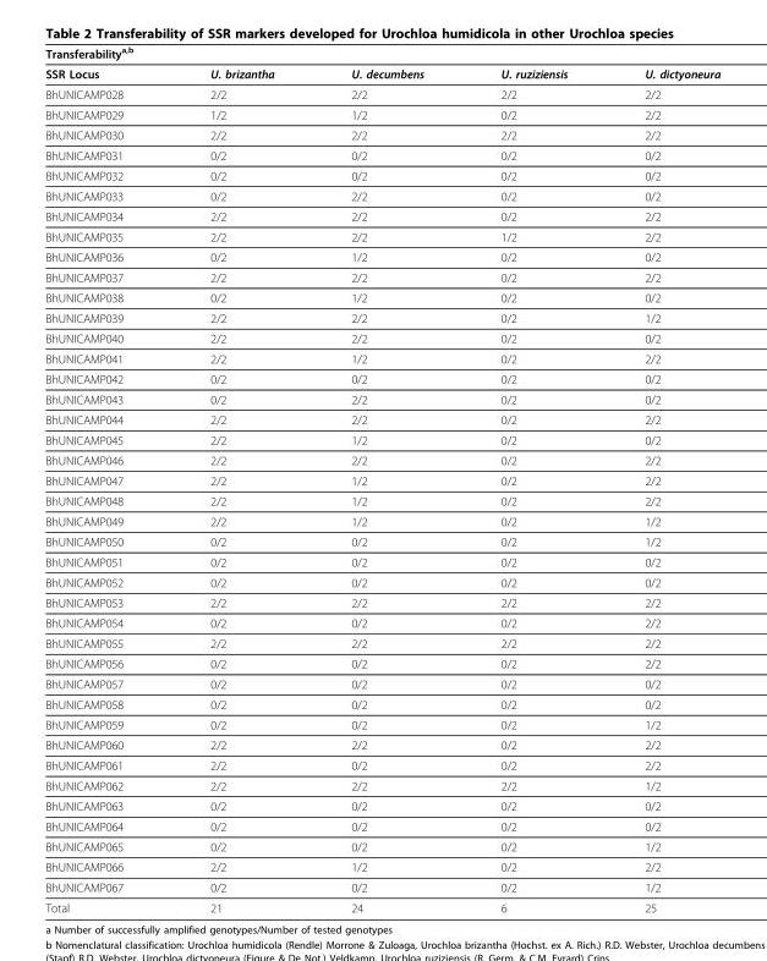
<table><thead><tr><td>Transferability<sup>a,b</sup></td><td></td><td></td><td></td><td></td></tr></thead><tbody><tr><td>SSR Locus</td><td>U. brizantha</td><td>U. decumbens</td><td>U. ruziziensis</td><td>U. dictyoneura</td></tr><tr><td>BhUNICAMP028</td><td>2/2</td><td>2/2</td><td>2/2</td><td>2/2</td></tr><tr><td>BhUNICAMP029</td><td>1/2</td><td>1/2</td><td>0/2</td><td>2/2</td></tr><tr><td>BhUNICAMP030</td><td>2/2</td><td>2/2</td><td>2/2</td><td>2/2</td></tr><tr><td>BhUNICAMP031</td><td>0/2</td><td>0/2</td><td>0/2</td><td>0/2</td></tr><tr><td>BhUNICAMP032</td><td>0/2</td><td>0/2</td><td>0/2</td><td>0/2</td></tr><tr><td>BhUNICAMP033</td><td>0/2</td><td>2/2</td><td>0/2</td><td>0/2</td></tr><tr><td>BhUNICAMP034</td><td>2/2</td><td>2/2</td><td>0/2</td><td>2/2</td></tr><tr><td>BhUNICAMP035</td><td>2/2</td><td>2/2</td><td>1/2</td><td>2/2</td></tr><tr><td>BhUNICAMP036</td><td>0/2</td><td>1/2</td><td>0/2</td><td>0/2</td></tr><tr><td>BhUNICAMP037</td><td>2/2</td><td>2/2</td><td>0/2</td><td>2/2</td></tr><tr><td>BhUNICAMP038</td><td>0/2</td><td>1/2</td><td>0/2</td><td>0/2</td></tr><tr><td>BhUNICAMP039</td><td>2/2</td><td>2/2</td><td>0/2</td><td>1/2</td></tr><tr><td>BhUNICAMP040</td><td>2/2</td><td>2/2</td><td>0/2</td><td>0/2</td></tr><tr><td>BhUNICAMP041</td><td>2/2</td><td>1/2</td><td>0/2</td><td>2/2</td></tr><tr><td>BhUNICAMP042</td><td>0/2</td><td>0/2</td><td>0/2</td><td>0/2</td></tr><tr><td>BhUNICAMP043</td><td>0/2</td><td>2/2</td><td>0/2</td><td>0/2</td></tr><tr><td>BhUNICAMP044</td><td>2/2</td><td>2/2</td><td>0/2</td><td>2/2</td></tr><tr><td>BhUNICAMP045</td><td>2/2</td><td>1/2</td><td>0/2</td><td>0/2</td></tr><tr><td>BhUNICAMP046</td><td>2/2</td><td>2/2</td><td>0/2</td><td>2/2</td></tr><tr><td>BhUNICAMP047</td><td>2/2</td><td>1/2</td><td>0/2</td><td>2/2</td></tr><tr><td>BhUNICAMP048</td><td>2/2</td><td>1/2</td><td>0/2</td><td>2/2</td></tr><tr><td>BhUNICAMP049</td><td>2/2</td><td>1/2</td><td>0/2</td><td>1/2</td></tr><tr><td>BhUNICAMP050</td><td>0/2</td><td>0/2</td><td>0/2</td><td>1/2</td></tr><tr><td>BhUNICAMP051</td><td>0/2</td><td>0/2</td><td>0/2</td><td>0/2</td></tr><tr><td>BhUNICAMP052</td><td>0/2</td><td>0/2</td><td>0/2</td><td>0/2</td></tr><tr><td>BhUNICAMP053</td><td>2/2</td><td>2/2</td><td>2/2</td><td>2/2</td></tr><tr><td>BhUNICAMP054</td><td>0/2</td><td>0/2</td><td>0/2</td><td>2/2</td></tr><tr><td>BhUNICAMP055</td><td>2/2</td><td>2/2</td><td>2/2</td><td>2/2</td></tr><tr><td>BhUNICAMP056</td><td>0/2</td><td>0/2</td><td>0/2</td><td>2/2</td></tr><tr><td>BhUNICAMP057</td><td>0/2</td><td>0/2</td><td>0/2</td><td>0/2</td></tr><tr><td>BhUNICAMP058</td><td>0/2</td><td>0/2</td><td>0/2</td><td>0/2</td></tr><tr><td>BhUNICAMP059</td><td>0/2</td><td>0/2</td><td>0/2</td><td>1/2</td></tr><tr><td>BhUNICAMP060</td><td>2/2</td><td>2/2</td><td>0/2</td><td>2/2</td></tr><tr><td>BhUNICAMP061</td><td>2/2</td><td>0/2</td><td>0/2</td><td>2/2</td></tr><tr><td>BhUNICAMP062</td><td>2/2</td><td>2/2</td><td>2/2</td><td>1/2</td></tr><tr><td>BhUNICAMP063</td><td>0/2</td><td>0/2</td><td>0/2</td><td>0/2</td></tr><tr><td>BhUNICAMP064</td><td>0/2</td><td>0/2</td><td>0/2</td><td>0/2</td></tr><tr><td>BhUNICAMP065</td><td>0/2</td><td>0/2</td><td>0/2</td><td>1/2</td></tr><tr><td>BhUNICAMP066</td><td>2/2</td><td>1/2</td><td>0/2</td><td>2/2</td></tr><tr><td>BhUNICAMP067</td><td>0/2</td><td>0/2</td><td>0/2</td><td>1/2</td></tr><tr><td>Total</td><td>21</td><td>24</td><td>6</td><td>25</td></tr></tbody></table>